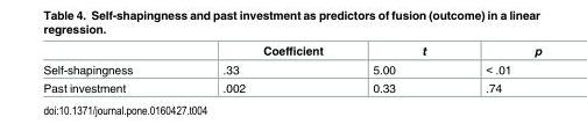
<table><thead><tr><td></td><td>Coefficient</td><td>t</td><td>p</td></tr></thead><tbody><tr><td>Self-shapingness</td><td>.33</td><td>5.00</td><td>&lt; .01</td></tr><tr><td>Past investment</td><td>.002</td><td>0.33</td><td>.74</td></tr></tbody></table>